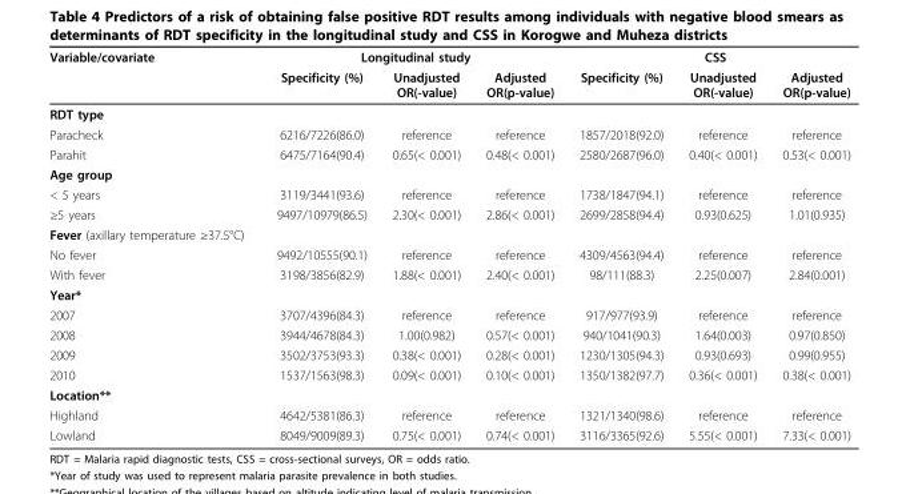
<table><thead><tr><td rowspan="2">Variable/covariate</td><td colspan="3">Longitudinal study</td><td colspan="3">CSS</td></tr><tr><td>Specificity (%)</td><td>Unadjusted OR(-value)</td><td>Adjusted OR(p-value)</td><td>Specificity (%)</td><td>Unadjusted OR(-value)</td><td>Adjusted OR(p-value)</td></tr></thead><tbody><tr><td colspan="7">RDT type</td></tr><tr><td>Paracheck</td><td>6216/7226(86.0)</td><td>reference</td><td>reference</td><td>1857/2018(92.0)</td><td>reference</td><td>reference</td></tr><tr><td>Parahit</td><td>6475/7164(90.4)</td><td>0.65(&lt; 0.001)</td><td>0.48(&lt; 0.001)</td><td>2580/2687(96.0)</td><td>0.40(&lt; 0.001)</td><td>0.53(&lt; 0.001)</td></tr><tr><td colspan="7">Age group</td></tr><tr><td>&lt; 5 years</td><td>3119/3441(93.6)</td><td>reference</td><td>reference</td><td>1738/1847(94.1)</td><td>reference</td><td>reference</td></tr><tr><td>≥5 years</td><td>9497/10979(86.5)</td><td>2.30(&lt; 0.001)</td><td>2.86(&lt; 0.001)</td><td>2699/2858(94.4)</td><td>0.93(0.625)</td><td>1.01(0.935)</td></tr><tr><td colspan="7">Fever (axillary temperature ≥37.5°C)</td></tr><tr><td>No fever</td><td>9492/10555(90.1)</td><td>reference</td><td>reference</td><td>4309/4563(94.4)</td><td>reference</td><td>reference</td></tr><tr><td>With fever</td><td>3198/3856(82.9)</td><td>1.88(&lt; 0.001)</td><td>2.40(&lt; 0.001)</td><td>98/111(88.3)</td><td>2.25(0.007)</td><td>2.84(0.001)</td></tr><tr><td colspan="7">Year*</td></tr><tr><td>2007</td><td>3707/4396(84.3)</td><td>reference</td><td>reference</td><td>917/977(93.9)</td><td>reference</td><td>reference</td></tr><tr><td>2008</td><td>3944/4678(84.3)</td><td>1.00(0.982)</td><td>0.57(&lt; 0.001)</td><td>940/1041(90.3)</td><td>1.64(0.003)</td><td>0.97(0.850)</td></tr><tr><td>2009</td><td>3502/3753(93.3)</td><td>0.38(&lt; 0.001)</td><td>0.28(&lt; 0.001)</td><td>1230/1305(94.3)</td><td>0.93(0.693)</td><td>0.99(0.955)</td></tr><tr><td>2010</td><td>1537/1563(98.3)</td><td>0.09(&lt; 0.001)</td><td>0.10(&lt; 0.001)</td><td>1350/1382(97.7)</td><td>0.36(&lt; 0.001)</td><td>0.38(&lt; 0.001)</td></tr><tr><td colspan="7">Location**</td></tr><tr><td>Highland</td><td>4642/5381(86.3)</td><td>reference</td><td>reference</td><td>1321/1340(98.6)</td><td>reference</td><td>reference</td></tr><tr><td>Lowland</td><td>8049/9009(89.3)</td><td>0.75(&lt; 0.001)</td><td>0.74(&lt; 0.001)</td><td>3116/3365(92.6)</td><td>5.55(&lt; 0.001)</td><td>7.33(&lt; 0.001)</td></tr></tbody></table>